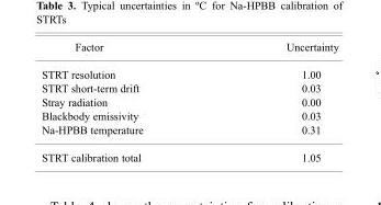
<table><thead><tr><td>Factor</td><td>Uncertainty</td></tr></thead><tbody><tr><td>STRT resolution</td><td>1.00</td></tr><tr><td>STRT short-term drift</td><td>0.03</td></tr><tr><td>Stray radiation</td><td>0.00</td></tr><tr><td>Blackbody emissivity</td><td>0.03</td></tr><tr><td>Na-HPBB temperature</td><td>0.31</td></tr><tr><td>STRT calibration total</td><td>1.05</td></tr></tbody></table>